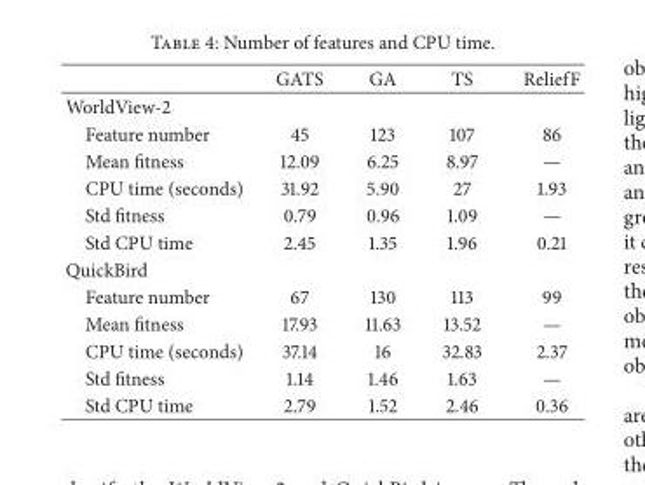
<table><thead><tr><td></td><td>GATS</td><td>GA</td><td>TS</td><td>ReliefF</td></tr></thead><tbody><tr><td colspan="5">WorldView-2</td></tr><tr><td>Feature number</td><td>45</td><td>123</td><td>107</td><td>86</td></tr><tr><td>Mean fitness</td><td>12.09</td><td>6.25</td><td>8.97</td><td>—</td></tr><tr><td>CPU time (seconds)</td><td>31.92</td><td>5.90</td><td>27</td><td>1.93</td></tr><tr><td>Std fitness</td><td>0.79</td><td>0.96</td><td>1.09</td><td>—</td></tr><tr><td>Std CPU time</td><td>2.45</td><td>1.35</td><td>1.96</td><td>0.21</td></tr><tr><td colspan="5">QuickBird</td></tr><tr><td>Feature number</td><td>67</td><td>130</td><td>113</td><td>99</td></tr><tr><td>Mean fitness</td><td>17.93</td><td>11.63</td><td>13.52</td><td>—</td></tr><tr><td>CPU time (seconds)</td><td>37.14</td><td>16</td><td>32.83</td><td>2.37</td></tr><tr><td>Std fitness</td><td>1.14</td><td>1.46</td><td>1.63</td><td>—</td></tr><tr><td>Std CPU time</td><td>2.79</td><td>1.52</td><td>2.46</td><td>0.36</td></tr></tbody></table>